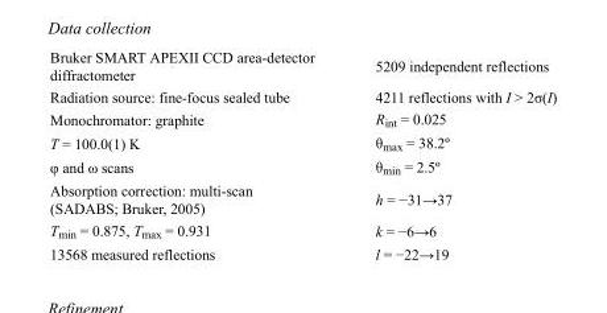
<table><tbody><tr><td>Bruker SMART APEXII CCD area-detector diffractometer</td><td>5209 independent reflections</td></tr><tr><td>Radiation source: fine-focus sealed tube</td><td>4211 reflections with I &gt; 2σ(I)</td></tr><tr><td>Monochromator: graphite</td><td>R<sub>int</sub> = 0.025</td></tr><tr><td>T = 100.0(1) K</td><td>θ<sub>max</sub> = 38.2º</td></tr><tr><td>φ and ω scans</td><td>θ<sub>min</sub> = 2.5º</td></tr><tr><td>Absorption correction: multi-scan (SADABS; Bruker, 2005)</td><td>h = −31→37</td></tr><tr><td>T<sub>min</sub> = 0.875, T<sub>max</sub> = 0.931</td><td>k = −6→6</td></tr><tr><td>13568 measured reflections</td><td>l = −22→19</td></tr></tbody></table>